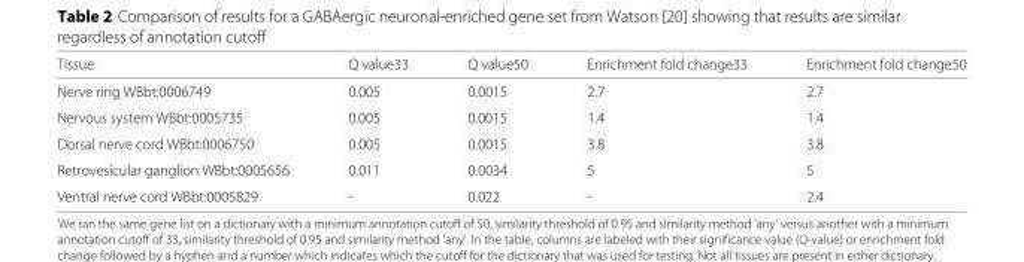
<table><thead><tr><td>Tissue</td><td>Q value33</td><td>Q value50</td><td>Enrichment fold change33</td><td>Enrichment fold change50</td></tr></thead><tbody><tr><td>Nerve ring WBbt:0006749</td><td>0.005</td><td>0.0015</td><td>2.7</td><td>2.7</td></tr><tr><td>Nervous system WBbt:0005735</td><td>0.005</td><td>0.0015</td><td>1.4</td><td>1.4</td></tr><tr><td>Dorsal nerve cord WBbt:0006750</td><td>0.005</td><td>0.0015</td><td>3.8</td><td>3.8</td></tr><tr><td>Retrovesicular ganglion WBbt:0005656</td><td>0.011</td><td>0.0034</td><td>5</td><td>5</td></tr><tr><td>Ventral nerve cord WBbt:0005829</td><td>-</td><td>0.022</td><td>-</td><td>2.4</td></tr></tbody></table>